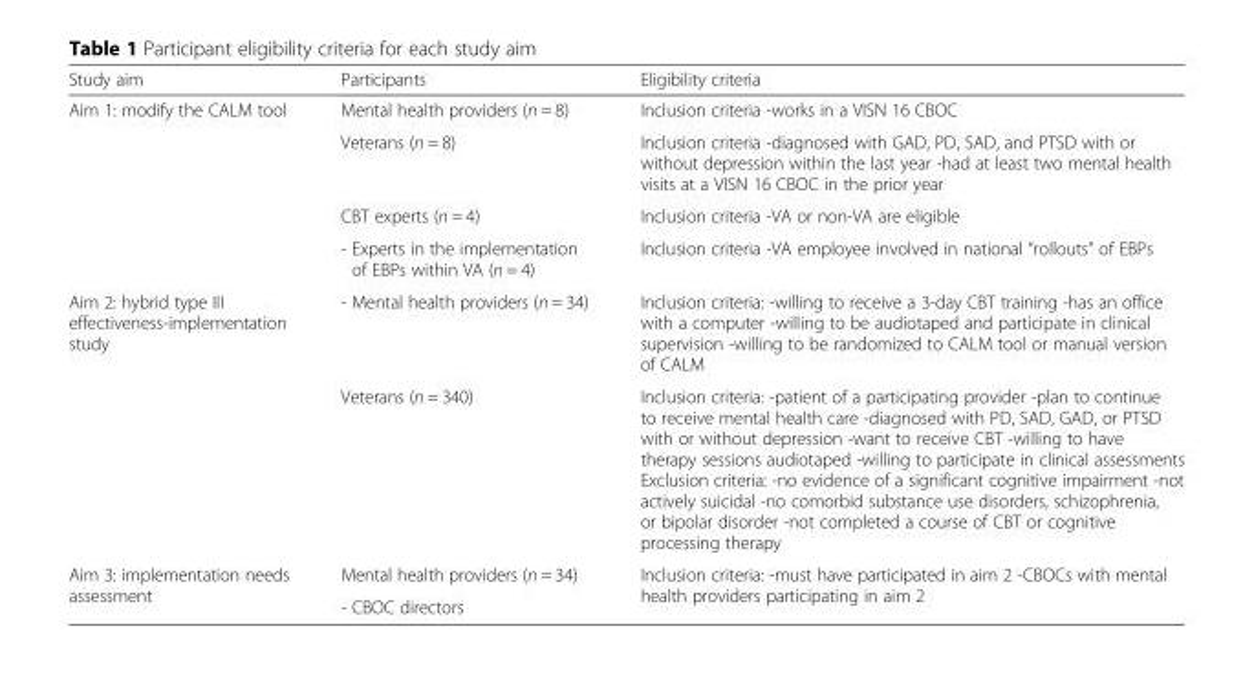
<table><thead><tr><td>Study aim</td><td>Participants</td><td>Eligibility criteria</td></tr></thead><tbody><tr><td rowspan="4">Aim 1: modify the CALM tool</td><td>Mental health providers (n = 8)</td><td>Inclusion criteria -works in a VISN 16 CBOC</td></tr><tr><td>Veterans (n = 8)</td><td>Inclusion criteria -diagnosed with GAD, PD, SAD, and PTSD with or without depression within the last year -had at least two mental health visits at a VISN 16 CBOC in the prior year</td></tr><tr><td>CBT experts (n = 4)</td><td>Inclusion criteria -VA or non-VA are eligible</td></tr><tr><td>- Experts in the implementation of EBPs within VA (n = 4)</td><td>Inclusion criteria -VA employee involved in national “rollouts” of EBPs</td></tr><tr><td rowspan="2">Aim 2: hybrid type III effectiveness-implementation study</td><td>- Mental health providers (n = 34)</td><td>Inclusion criteria: -willing to receive a 3-day CBT training -has an office with a computer -willing to be audiotaped and participate in clinical supervision -willing to be randomized to CALM tool or manual version of CALM</td></tr><tr><td>Veterans (n = 340)</td><td>Inclusion criteria: -patient of a participating provider -plan to continue to receive mental health care -diagnosed with PD, SAD, GAD, or PTSD with or without depression -want to receive CBT -willing to have therapy sessions audiotaped -willing to participate in clinical assessments Exclusion criteria: -no evidence of a significant cognitive impairment -not actively suicidal -no comorbid substance use disorders, schizophrenia, or bipolar disorder -not completed a course of CBT or cognitive processing therapy</td></tr><tr><td rowspan="2">Aim 3: implementation needs assessment</td><td>Mental health providers (n = 34)</td><td rowspan="2">Inclusion criteria: -must have participated in aim 2 -CBOCs with mental health providers participating in aim 2</td></tr><tr><td>- CBOC directors</td></tr></tbody></table>